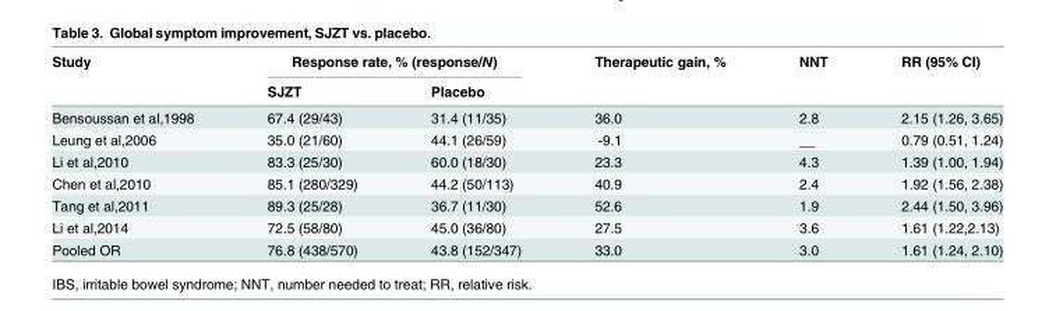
<table><thead><tr><td rowspan="2">Study</td><td colspan="2">Response rate, % (response/N)</td><td rowspan="2">Therapeutic gain, %</td><td rowspan="2">NNT</td><td rowspan="2">RR (95% CI)</td></tr><tr><td>SJZT</td><td>Placebo</td></tr></thead><tbody><tr><td>Bensoussan et al,1998</td><td>67.4 (29/43)</td><td>31.4 (11/35)</td><td>36.0</td><td>2.8</td><td>2.15 (1.26, 3.65)</td></tr><tr><td>Leung et al,2006</td><td>35.0 (21/60)</td><td>44.1 (26/59)</td><td>-9.1</td><td>__</td><td>0.79 (0.51, 1.24)</td></tr><tr><td>Li et al,2010</td><td>83.3 (25/30)</td><td>60.0 (18/30)</td><td>23.3</td><td>4.3</td><td>1.39 (1.00, 1.94)</td></tr><tr><td>Chen et al,2010</td><td>85.1 (280/329)</td><td>44.2 (50/113)</td><td>40.9</td><td>2.4</td><td>1.92 (1.56, 2.38)</td></tr><tr><td>Tang et al,2011</td><td>89.3 (25/28)</td><td>36.7 (11/30)</td><td>52.6</td><td>1.9</td><td>2.44 (1.50, 3.96)</td></tr><tr><td>Li et al,2014</td><td>72.5 (58/80)</td><td>45.0 (36/80)</td><td>27.5</td><td>3.6</td><td>1.61 (1.22,2.13)</td></tr><tr><td>Pooled OR</td><td>76.8 (438/570)</td><td>43.8 (152/347)</td><td>33.0</td><td>3.0</td><td>1.61 (1.24, 2.10)</td></tr></tbody></table>